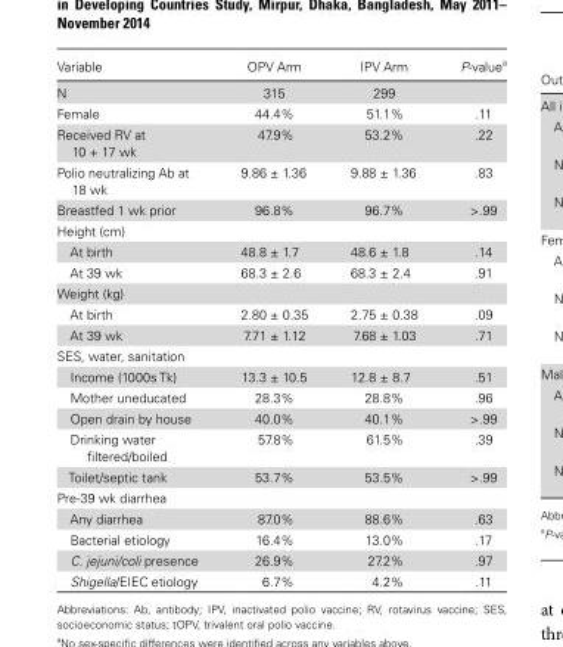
<table><thead><tr><td>Variable</td><td>OPV Arm</td><td>IPV Arm</td><td>P-value<sup>a</sup></td></tr></thead><tbody><tr><td>N</td><td>315</td><td>299</td><td></td></tr><tr><td>Female</td><td>44.4%</td><td>51.1%</td><td>.11</td></tr><tr><td>Received RV at 10 + 17 wk</td><td>47.9%</td><td>53.2%</td><td>.22</td></tr><tr><td>Polio neutralizing Ab at 18 wk</td><td>9.86 ± 1.36</td><td>9.88 ± 1.36</td><td>.83</td></tr><tr><td>Breastfed 1 wk prior</td><td>96.8%</td><td>96.7%</td><td>&gt;.99</td></tr><tr><td colspan="4">Height (cm)</td></tr><tr><td>At birth</td><td>48.8 ± 1.7</td><td>48.6 ± 1.8</td><td>.14</td></tr><tr><td>At 39 wk</td><td>68.3 ± 2.6</td><td>68.3 ± 2.4</td><td>.91</td></tr><tr><td colspan="4">Weight (kg)</td></tr><tr><td>At birth</td><td>2.80 ± 0.35</td><td>2.75 ± 0.38</td><td>.09</td></tr><tr><td>At 39 wk</td><td>7.71 ± 1.12</td><td>7.68 ± 1.03</td><td>.71</td></tr><tr><td colspan="4">SES, water, sanitation</td></tr><tr><td>Income (1000s Tk)</td><td>13.3 ± 10.5</td><td>12.8 ± 8.7</td><td>.51</td></tr><tr><td>Mother uneducated</td><td>28.3%</td><td>28.8%</td><td>.96</td></tr><tr><td>Open drain by house</td><td>40.0%</td><td>40.1%</td><td>&gt;.99</td></tr><tr><td>Drinking water filtered/boiled</td><td>57.8%</td><td>61.5%</td><td>.39</td></tr><tr><td>Toilet/septic tank</td><td>53.7%</td><td>53.5%</td><td>&gt;.99</td></tr><tr><td colspan="4">Pre-39 wk diarrhea</td></tr><tr><td>Any diarrhea</td><td>87.0%</td><td>88.6%</td><td>.63</td></tr><tr><td>Bacterial etiology</td><td>16.4%</td><td>13.0%</td><td>.17</td></tr><tr><td>C. jejuni/coli presence</td><td>26.9%</td><td>27.2%</td><td>.97</td></tr><tr><td>Shigella/EIEC etiology</td><td>6.7%</td><td>4.2%</td><td>.11</td></tr></tbody></table>